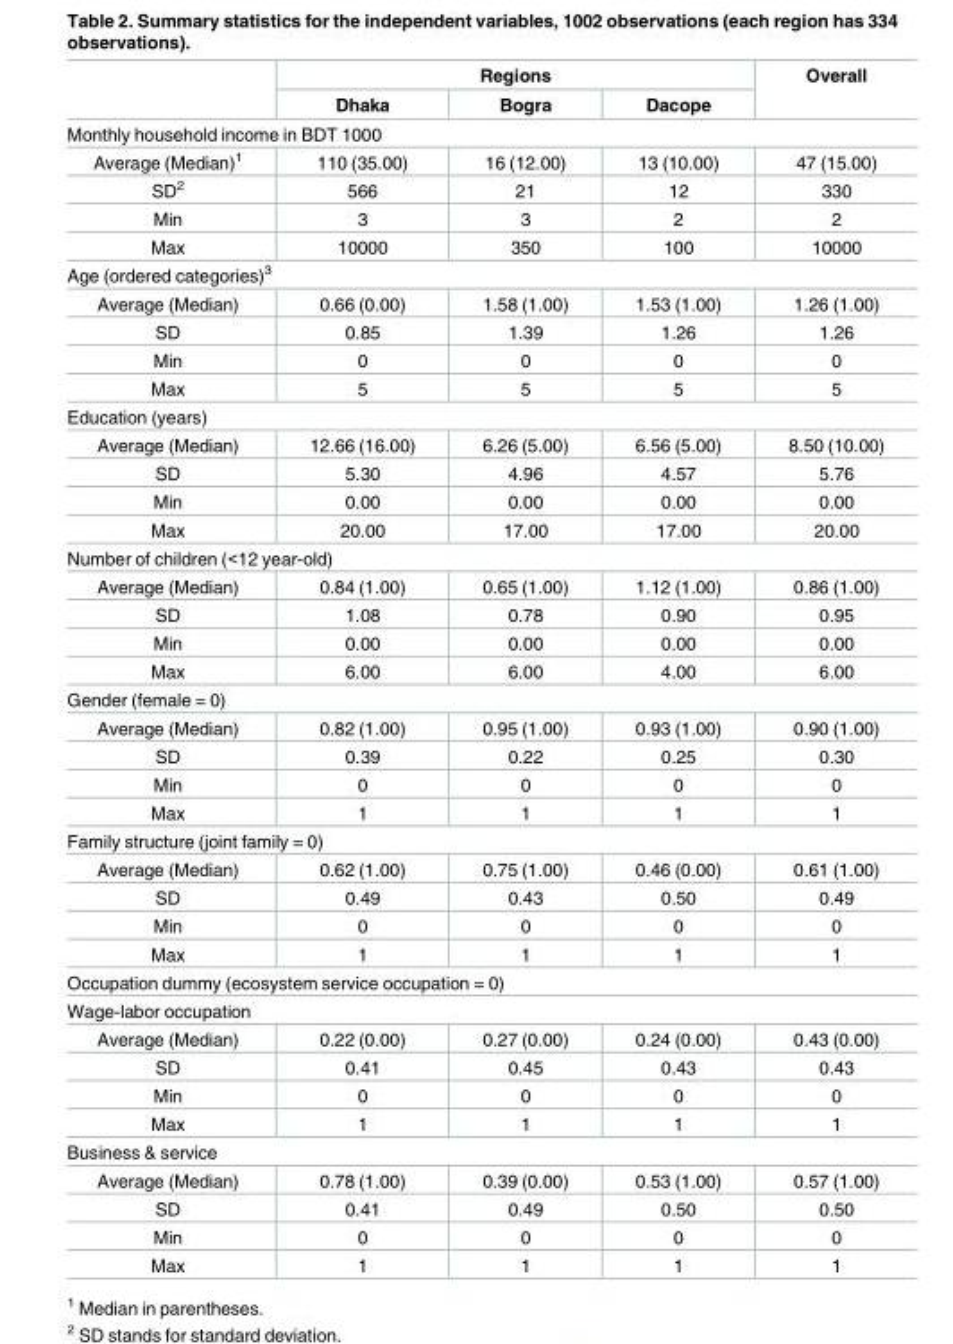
<table><thead><tr><td rowspan="2"></td><td colspan="3">Regions</td><td rowspan="2">Overall</td></tr><tr><td>Dhaka</td><td>Bogra</td><td>Dacope</td></tr></thead><tbody><tr><td colspan="5">Monthly household income in BDT 1000</td></tr><tr><td>Average (Median)<sup>1</sup></td><td>110 (35.00)</td><td>16 (12.00)</td><td>13 (10.00)</td><td>47 (15.00)</td></tr><tr><td>SD<sup>2</sup></td><td>566</td><td>21</td><td>12</td><td>330</td></tr><tr><td>Min</td><td>3</td><td>3</td><td>2</td><td>2</td></tr><tr><td>Max</td><td>10000</td><td>350</td><td>100</td><td>10000</td></tr><tr><td colspan="5">Age (ordered categories)<sup>3</sup></td></tr><tr><td>Average (Median)</td><td>0.66 (0.00)</td><td>1.58 (1.00)</td><td>1.53 (1.00)</td><td>1.26 (1.00)</td></tr><tr><td>SD</td><td>0.85</td><td>1.39</td><td>1.26</td><td>1.26</td></tr><tr><td>Min</td><td>0</td><td>0</td><td>0</td><td>0</td></tr><tr><td>Max</td><td>5</td><td>5</td><td>5</td><td>5</td></tr><tr><td colspan="5">Education (years)</td></tr><tr><td>Average (Median)</td><td>12.66 (16.00)</td><td>6.26 (5.00)</td><td>6.56 (5.00)</td><td>8.50 (10.00)</td></tr><tr><td>SD</td><td>5.30</td><td>4.96</td><td>4.57</td><td>5.76</td></tr><tr><td>Min</td><td>0.00</td><td>0.00</td><td>0.00</td><td>0.00</td></tr><tr><td>Max</td><td>20.00</td><td>17.00</td><td>17.00</td><td>20.00</td></tr><tr><td colspan="5">Number of children (&lt;12 year-old)</td></tr><tr><td>Average (Median)</td><td>0.84 (1.00)</td><td>0.65 (1.00)</td><td>1.12 (1.00)</td><td>0.86 (1.00)</td></tr><tr><td>SD</td><td>1.08</td><td>0.78</td><td>0.90</td><td>0.95</td></tr><tr><td>Min</td><td>0.00</td><td>0.00</td><td>0.00</td><td>0.00</td></tr><tr><td>Max</td><td>6.00</td><td>6.00</td><td>4.00</td><td>6.00</td></tr><tr><td colspan="5">Gender (female = 0)</td></tr><tr><td>Average (Median)</td><td>0.82 (1.00)</td><td>0.95 (1.00)</td><td>0.93 (1.00)</td><td>0.90 (1.00)</td></tr><tr><td>SD</td><td>0.39</td><td>0.22</td><td>0.25</td><td>0.30</td></tr><tr><td>Min</td><td>0</td><td>0</td><td>0</td><td>0</td></tr><tr><td>Max</td><td>1</td><td>1</td><td>1</td><td>1</td></tr><tr><td colspan="5">Family structure (joint family = 0)</td></tr><tr><td>Average (Median)</td><td>0.62 (1.00)</td><td>0.75 (1.00)</td><td>0.46 (0.00)</td><td>0.61 (1.00)</td></tr><tr><td>SD</td><td>0.49</td><td>0.43</td><td>0.50</td><td>0.49</td></tr><tr><td>Min</td><td>0</td><td>0</td><td>0</td><td>0</td></tr><tr><td>Max</td><td>1</td><td>1</td><td>1</td><td>1</td></tr><tr><td colspan="5">Occupation dummy (ecosystem service occupation = 0)</td></tr><tr><td colspan="5">Wage-labor occupation</td></tr><tr><td>Average (Median)</td><td>0.22 (0.00)</td><td>0.27 (0.00)</td><td>0.24 (0.00)</td><td>0.43 (0.00)</td></tr><tr><td>SD</td><td>0.41</td><td>0.45</td><td>0.43</td><td>0.43</td></tr><tr><td>Min</td><td>0</td><td>0</td><td>0</td><td>0</td></tr><tr><td>Max</td><td>1</td><td>1</td><td>1</td><td>1</td></tr><tr><td colspan="5">Business &amp; service</td></tr><tr><td>Average (Median)</td><td>0.78 (1.00)</td><td>0.39 (0.00)</td><td>0.53 (1.00)</td><td>0.57 (1.00)</td></tr><tr><td>SD</td><td>0.41</td><td>0.49</td><td>0.50</td><td>0.50</td></tr><tr><td>Min</td><td>0</td><td>0</td><td>0</td><td>0</td></tr><tr><td>Max</td><td>1</td><td>1</td><td>1</td><td>1</td></tr></tbody></table>